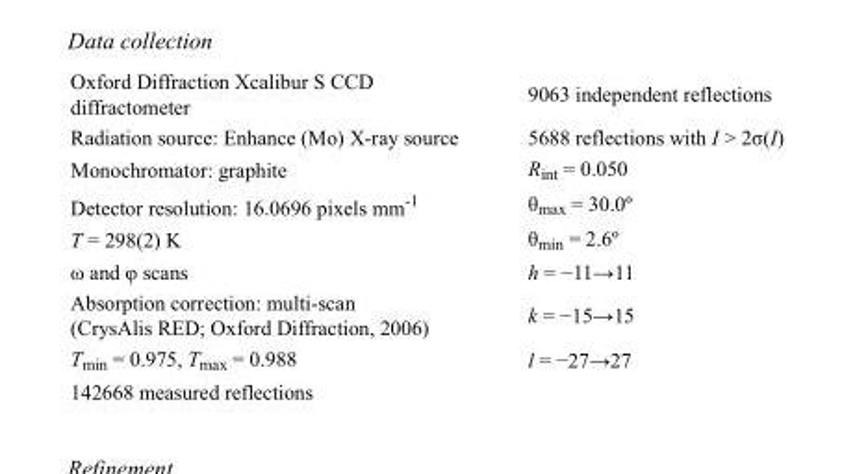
<table><tbody><tr><td>Oxford Diffraction Xcalibur S CCD diffractometer</td><td>9063 independent reflections</td></tr><tr><td>Radiation source: Enhance (Mo) X-ray source</td><td>5688 reflections with I &gt; 2σ(I)</td></tr><tr><td>Monochromator: graphite</td><td>R<sub>int</sub> = 0.050</td></tr><tr><td>Detector resolution: 16.0696 pixels mm<sup>-1</sup></td><td>θ<sub>max</sub> = 30.0º</td></tr><tr><td>T = 298(2) K</td><td>θ<sub>min</sub> = 2.6º</td></tr><tr><td>ω and φ scans</td><td>h = −11→11</td></tr><tr><td>Absorption correction: multi-scan (CrysAlis RED; Oxford Diffraction, 2006)</td><td>k = −15→15</td></tr><tr><td>T<sub>min</sub> = 0.975, T<sub>max</sub> = 0.988</td><td>l = −27→27</td></tr><tr><td>142668 measured reflections</td><td></td></tr></tbody></table>